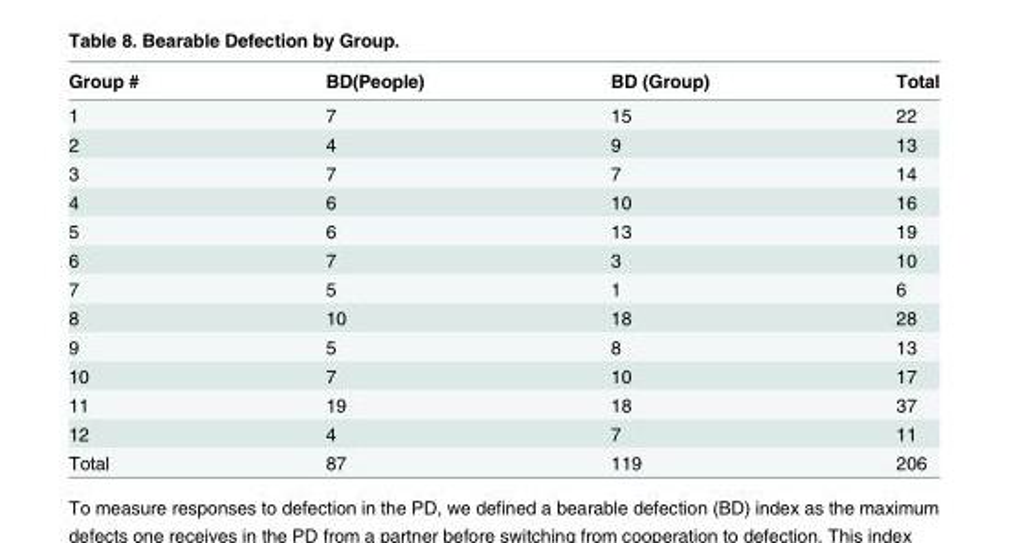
<table><thead><tr><td>Group #</td><td>BD(People)</td><td>BD (Group)</td><td>Total</td></tr></thead><tbody><tr><td>1</td><td>7</td><td>15</td><td>22</td></tr><tr><td>2</td><td>4</td><td>9</td><td>13</td></tr><tr><td>3</td><td>7</td><td>7</td><td>14</td></tr><tr><td>4</td><td>6</td><td>10</td><td>16</td></tr><tr><td>5</td><td>6</td><td>13</td><td>19</td></tr><tr><td>6</td><td>7</td><td>3</td><td>10</td></tr><tr><td>7</td><td>5</td><td>1</td><td>6</td></tr><tr><td>8</td><td>10</td><td>18</td><td>28</td></tr><tr><td>9</td><td>5</td><td>8</td><td>13</td></tr><tr><td>10</td><td>7</td><td>10</td><td>17</td></tr><tr><td>11</td><td>19</td><td>18</td><td>37</td></tr><tr><td>12</td><td>4</td><td>7</td><td>11</td></tr><tr><td>Total</td><td>87</td><td>119</td><td>206</td></tr></tbody></table>